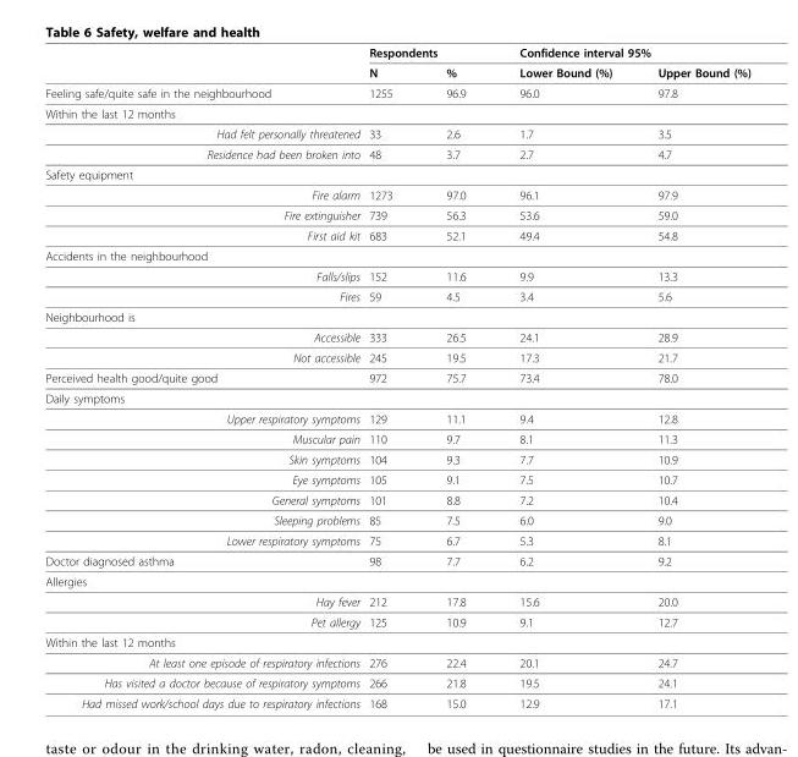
<table><thead><tr><td rowspan="2"></td><td colspan="2">Respondents</td><td colspan="2">Confidence interval 95%</td></tr><tr><td>N</td><td>%</td><td>Lower Bound (%)</td><td>Upper Bound (%)</td></tr></thead><tbody><tr><td>Feeling safe/quite safe in the neighbourhood</td><td>1255</td><td>96.9</td><td>96.0</td><td>97.8</td></tr><tr><td colspan="5">Within the last 12 months</td></tr><tr><td>Had felt personally threatened</td><td>33</td><td>2.6</td><td>1.7</td><td>3.5</td></tr><tr><td>Residence had been broken into</td><td>48</td><td>3.7</td><td>2.7</td><td>4.7</td></tr><tr><td colspan="5">Safety equipment</td></tr><tr><td>Fire alarm</td><td>1273</td><td>97.0</td><td>96.1</td><td>97.9</td></tr><tr><td>Fire extinguisher</td><td>739</td><td>56.3</td><td>53.6</td><td>59.0</td></tr><tr><td>First aid kit</td><td>683</td><td>52.1</td><td>49.4</td><td>54.8</td></tr><tr><td colspan="5">Accidents in the neighbourhood</td></tr><tr><td>Falls/slips</td><td>152</td><td>11.6</td><td>9.9</td><td>13.3</td></tr><tr><td>Fires</td><td>59</td><td>4.5</td><td>3.4</td><td>5.6</td></tr><tr><td colspan="5">Neighbourhood is</td></tr><tr><td>Accessible</td><td>333</td><td>26.5</td><td>24.1</td><td>28.9</td></tr><tr><td>Not accessible</td><td>245</td><td>19.5</td><td>17.3</td><td>21.7</td></tr><tr><td>Perceived health good/quite good</td><td>972</td><td>75.7</td><td>73.4</td><td>78.0</td></tr><tr><td colspan="5">Daily symptoms</td></tr><tr><td>Upper respiratory symptoms</td><td>129</td><td>11.1</td><td>9.4</td><td>12.8</td></tr><tr><td>Muscular pain</td><td>110</td><td>9.7</td><td>8.1</td><td>11.3</td></tr><tr><td>Skin symptoms</td><td>104</td><td>9.3</td><td>7.7</td><td>10.9</td></tr><tr><td>Eye symptoms</td><td>105</td><td>9.1</td><td>7.5</td><td>10.7</td></tr><tr><td>General symptoms</td><td>101</td><td>8.8</td><td>7.2</td><td>10.4</td></tr><tr><td>Sleeping problems</td><td>85</td><td>7.5</td><td>6.0</td><td>9.0</td></tr><tr><td>Lower respiratory symptoms</td><td>75</td><td>6.7</td><td>5.3</td><td>8.1</td></tr><tr><td>Doctor diagnosed asthma</td><td>98</td><td>7.7</td><td>6.2</td><td>9.2</td></tr><tr><td colspan="5">Allergies</td></tr><tr><td>Hay fever</td><td>212</td><td>17.8</td><td>15.6</td><td>20.0</td></tr><tr><td>Pet allergy</td><td>125</td><td>10.9</td><td>9.1</td><td>12.7</td></tr><tr><td colspan="5">Within the last 12 months</td></tr><tr><td>At least one episode of respiratory infections</td><td>276</td><td>22.4</td><td>20.1</td><td>24.7</td></tr><tr><td>Has visited a doctor because of respiratory symptoms</td><td>266</td><td>21.8</td><td>19.5</td><td>24.1</td></tr><tr><td>Had missed work/school days due to respiratory infections</td><td>168</td><td>15.0</td><td>12.9</td><td>17.1</td></tr></tbody></table>